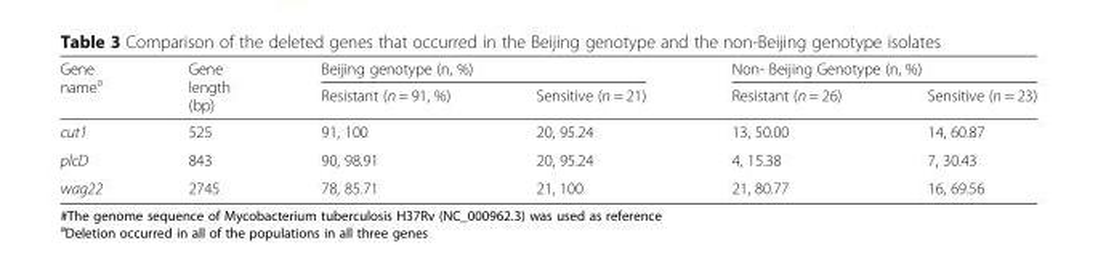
<table><thead><tr><td rowspan="2">Gene name<sup>a</sup></td><td rowspan="2">Gene length (bp)</td><td colspan="2">Beijing genotype (n, %)</td><td colspan="2">Non- Beijing Genotype (n, %)</td></tr><tr><td>Resistant (n = 91, %)</td><td>Sensitive (n = 21)</td><td>Resistant (n = 26)</td><td>Sensitive (n = 23)</td></tr></thead><tbody><tr><td>cut1</td><td>525</td><td>91, 100</td><td>20, 95.24</td><td>13, 50.00</td><td>14, 60.87</td></tr><tr><td>plcD</td><td>843</td><td>90, 98.91</td><td>20, 95.24</td><td>4, 15.38</td><td>7, 30.43</td></tr><tr><td>wag22</td><td>2745</td><td>78, 85.71</td><td>21, 100</td><td>21, 80.77</td><td>16, 69.56</td></tr></tbody></table>